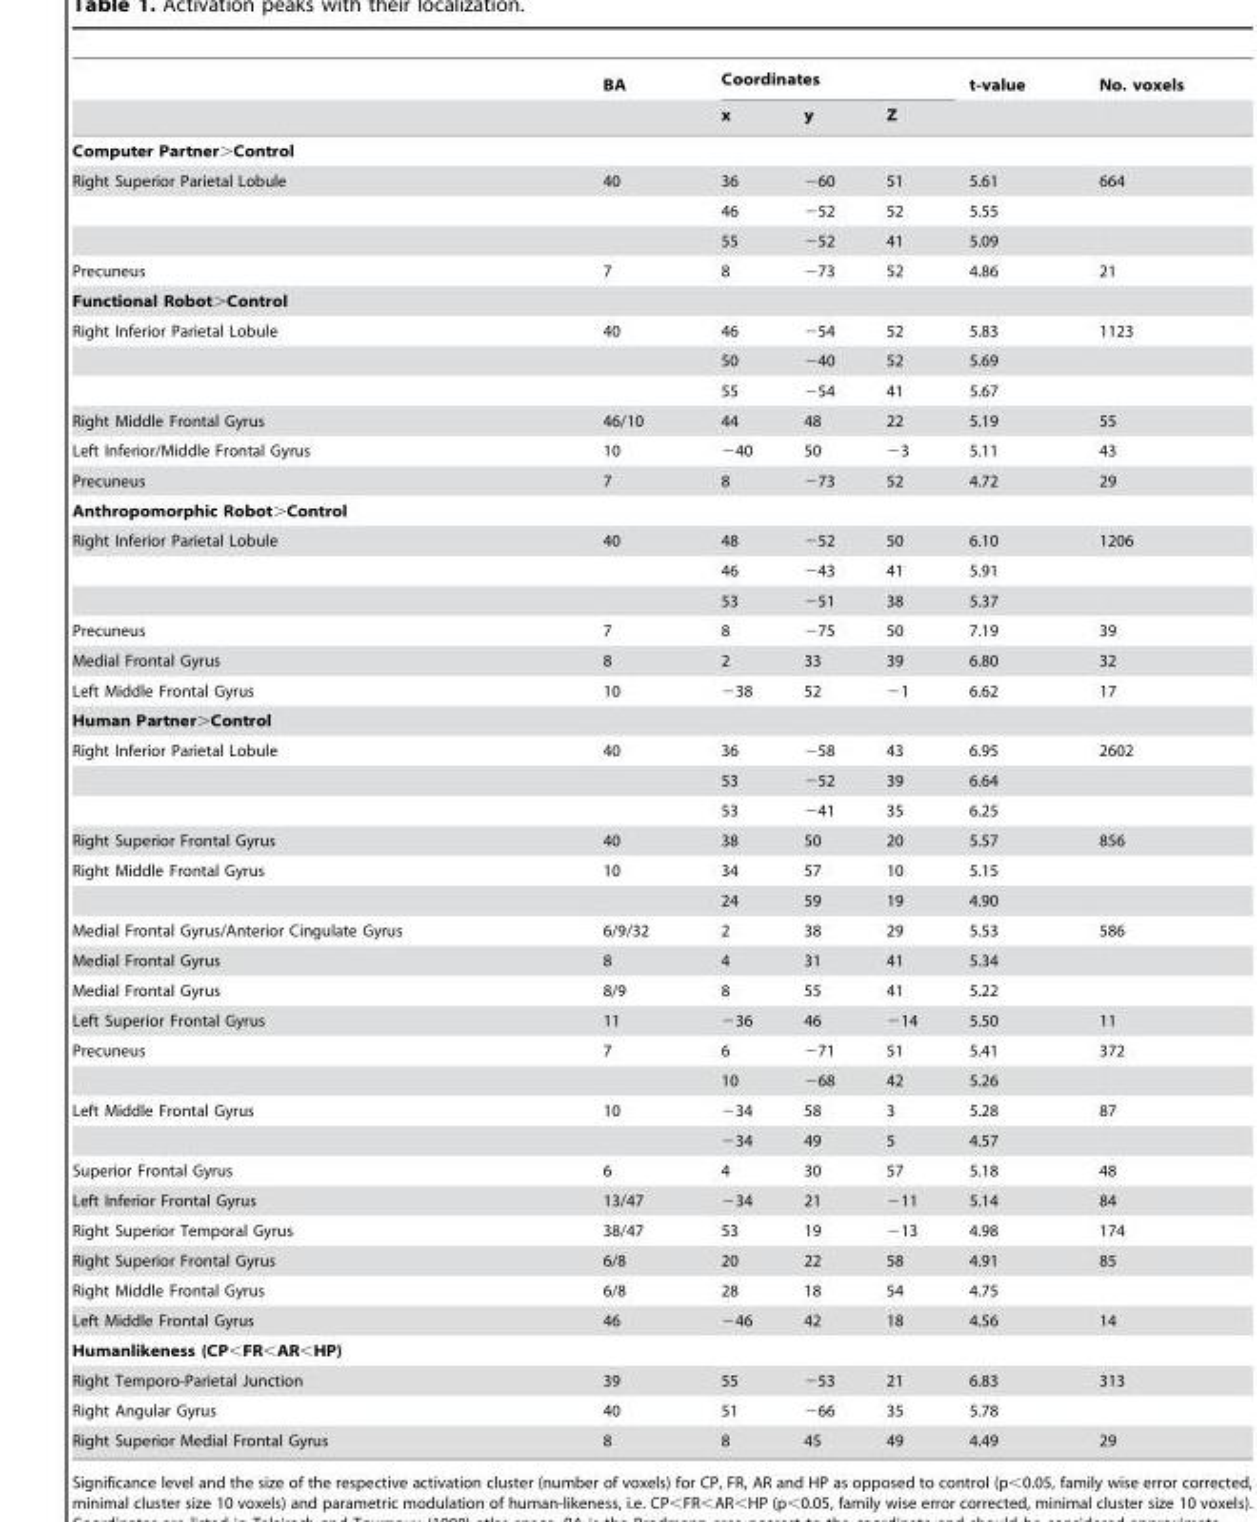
<table><thead><tr><td rowspan="2"></td><td rowspan="2">BA</td><td colspan="3">Coordinates</td><td rowspan="2">t-value</td><td rowspan="2">No. voxels</td></tr><tr><td>x</td><td>y</td><td>Z</td></tr></thead><tbody><tr><td colspan="7">Computer Partner&gt;Control</td></tr><tr><td rowspan="3">Right Superior Parietal Lobule</td><td>40</td><td>36</td><td>−60</td><td>51</td><td>5.61</td><td>664</td></tr><tr><td></td><td>46</td><td>−52</td><td>52</td><td>5.55</td><td></td></tr><tr><td></td><td>55</td><td>−52</td><td>41</td><td>5.09</td><td></td></tr><tr><td>Precuneus</td><td>7</td><td>8</td><td>−73</td><td>52</td><td>4.86</td><td>21</td></tr><tr><td colspan="7">Functional Robot&gt;Control</td></tr><tr><td rowspan="3">Right Inferior Parietal Lobule</td><td>40</td><td>46</td><td>−54</td><td>52</td><td>5.83</td><td>1123</td></tr><tr><td></td><td>50</td><td>−40</td><td>52</td><td>5.69</td><td></td></tr><tr><td></td><td>55</td><td>−54</td><td>41</td><td>5.67</td><td></td></tr><tr><td>Right Middle Frontal Gyrus</td><td>46/10</td><td>44</td><td>48</td><td>22</td><td>5.19</td><td>55</td></tr><tr><td>Left Inferior/Middle Frontal Gyrus</td><td>10</td><td>−40</td><td>50</td><td>−3</td><td>5.11</td><td>43</td></tr><tr><td>Precuneus</td><td>7</td><td>8</td><td>−73</td><td>52</td><td>4.72</td><td>29</td></tr><tr><td colspan="7">Anthropomorphic Robot&gt;Control</td></tr><tr><td rowspan="3">Right Inferior Parietal Lobule</td><td>40</td><td>48</td><td>−52</td><td>50</td><td>6.10</td><td>1206</td></tr><tr><td></td><td>46</td><td>−43</td><td>41</td><td>5.91</td><td></td></tr><tr><td></td><td>53</td><td>−51</td><td>38</td><td>5.37</td><td></td></tr><tr><td>Precuneus</td><td>7</td><td>8</td><td>−75</td><td>50</td><td>7.19</td><td>39</td></tr><tr><td>Medial Frontal Gyrus</td><td>8</td><td>2</td><td>33</td><td>39</td><td>6.80</td><td>32</td></tr><tr><td>Left Middle Frontal Gyrus</td><td>10</td><td>−38</td><td>52</td><td>−1</td><td>6.62</td><td>17</td></tr><tr><td colspan="7">Human Partner&gt;Control</td></tr><tr><td rowspan="3">Right Inferior Parietal Lobule</td><td>40</td><td>36</td><td>−58</td><td>43</td><td>6.95</td><td>2602</td></tr><tr><td></td><td>53</td><td>−52</td><td>39</td><td>6.64</td><td></td></tr><tr><td></td><td>53</td><td>−41</td><td>35</td><td>6.25</td><td></td></tr><tr><td>Right Superior Frontal Gyrus</td><td>40</td><td>38</td><td>50</td><td>20</td><td>5.57</td><td>856</td></tr><tr><td rowspan="2">Right Middle Frontal Gyrus</td><td>10</td><td>34</td><td>57</td><td>10</td><td>5.15</td><td></td></tr><tr><td></td><td>24</td><td>59</td><td>19</td><td>4.90</td><td></td></tr><tr><td>Medial Frontal Gyrus/Anterior Cingulate Gyrus</td><td>6/9/32</td><td>2</td><td>38</td><td>29</td><td>5.53</td><td>586</td></tr><tr><td>Medial Frontal Gyrus</td><td>8</td><td>4</td><td>31</td><td>41</td><td>5.34</td><td></td></tr><tr><td>Medial Frontal Gyrus</td><td>8/9</td><td>8</td><td>55</td><td>41</td><td>5.22</td><td></td></tr><tr><td>Left Superior Frontal Gyrus</td><td>11</td><td>−36</td><td>46</td><td>−14</td><td>5.50</td><td>11</td></tr><tr><td rowspan="2">Precuneus</td><td>7</td><td>6</td><td>−71</td><td>51</td><td>5.41</td><td>372</td></tr><tr><td></td><td>10</td><td>−68</td><td>42</td><td>5.26</td><td></td></tr><tr><td rowspan="2">Left Middle Frontal Gyrus</td><td>10</td><td>−34</td><td>58</td><td>3</td><td>5.28</td><td>87</td></tr><tr><td></td><td>−34</td><td>49</td><td>5</td><td>4.57</td><td></td></tr><tr><td>Superior Frontal Gyrus</td><td>6</td><td>4</td><td>30</td><td>57</td><td>5.18</td><td>48</td></tr><tr><td>Left Inferior Frontal Gyrus</td><td>13/47</td><td>−34</td><td>21</td><td>−11</td><td>5.14</td><td>84</td></tr><tr><td>Right Superior Temporal Gyrus</td><td>38/47</td><td>53</td><td>19</td><td>−13</td><td>4.98</td><td>174</td></tr><tr><td>Right Superior Frontal Gyrus</td><td>6/8</td><td>20</td><td>22</td><td>58</td><td>4.91</td><td>85</td></tr><tr><td>Right Middle Frontal Gyrus</td><td>6/8</td><td>28</td><td>18</td><td>54</td><td>4.75</td><td></td></tr><tr><td>Left Middle Frontal Gyrus</td><td>46</td><td>−46</td><td>42</td><td>18</td><td>4.56</td><td>14</td></tr><tr><td colspan="7">Humanlikeness (CP&lt;FR&lt;AR&lt;HP)</td></tr><tr><td>Right Temporo-Parietal Junction</td><td>39</td><td>55</td><td>−53</td><td>21</td><td>6.83</td><td>313</td></tr><tr><td>Right Angular Gyrus</td><td>40</td><td>51</td><td>−66</td><td>35</td><td>5.78</td><td></td></tr><tr><td>Right Superior Medial Frontal Gyrus</td><td>8</td><td>8</td><td>45</td><td>49</td><td>4.49</td><td>29</td></tr></tbody></table>